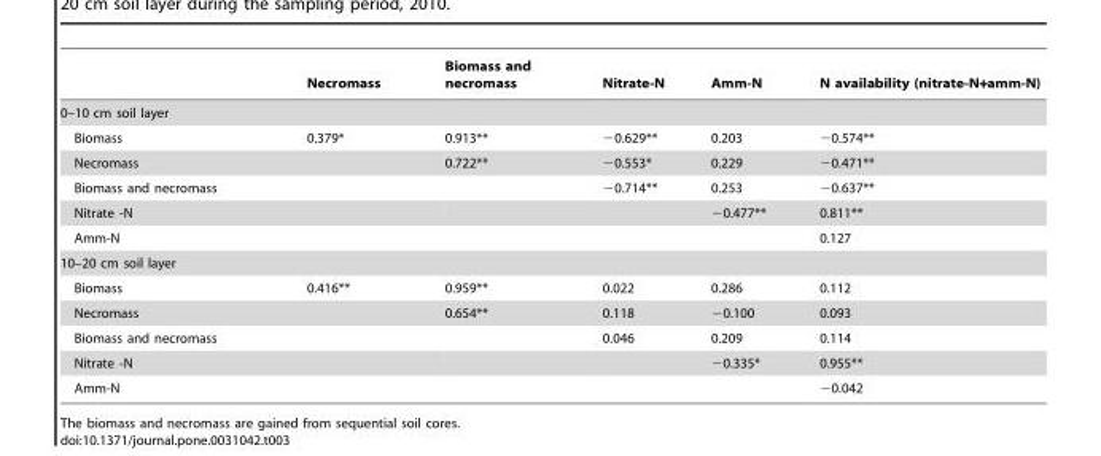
<table><thead><tr><td></td><td>Necromass</td><td>Biomass and necromass</td><td>Nitrate-N</td><td>Amm-N</td><td>N availability (nitrate-N+amm-N)</td></tr></thead><tbody><tr><td colspan="6">0–10 cm soil layer</td></tr><tr><td>Biomass</td><td>0.379*</td><td>0.913**</td><td>−0.629**</td><td>0.203</td><td>−0.574**</td></tr><tr><td>Necromass</td><td></td><td>0.722**</td><td>−0.553*</td><td>0.229</td><td>−0.471**</td></tr><tr><td>Biomass and necromass</td><td></td><td></td><td>−0.714**</td><td>0.253</td><td>−0.637**</td></tr><tr><td>Nitrate -N</td><td></td><td></td><td></td><td>−0.477**</td><td>0.811**</td></tr><tr><td>Amm-N</td><td></td><td></td><td></td><td></td><td>0.127</td></tr><tr><td colspan="6">10–20 cm soil layer</td></tr><tr><td>Biomass</td><td>0.416**</td><td>0.959**</td><td>0.022</td><td>0.286</td><td>0.112</td></tr><tr><td>Necromass</td><td></td><td>0.654**</td><td>0.118</td><td>−0.100</td><td>0.093</td></tr><tr><td>Biomass and necromass</td><td></td><td></td><td>0.046</td><td>0.209</td><td>0.114</td></tr><tr><td>Nitrate -N</td><td></td><td></td><td></td><td>−0.335*</td><td>0.955**</td></tr><tr><td>Amm-N</td><td></td><td></td><td></td><td></td><td>−0.042</td></tr></tbody></table>